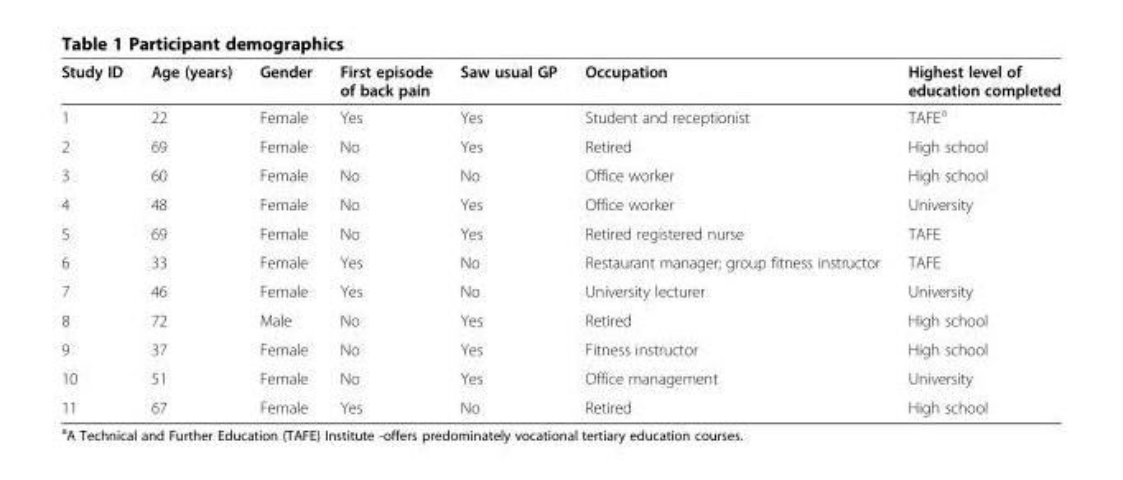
<table><thead><tr><td>Study ID</td><td>Age (years)</td><td>Gender</td><td>First episode of back pain</td><td>Saw usual GP</td><td>Occupation</td><td>Highest level of education completed</td></tr></thead><tbody><tr><td>1</td><td>22</td><td>Female</td><td>Yes</td><td>Yes</td><td>Student and receptionist</td><td>TAFE<sup>a</sup></td></tr><tr><td>2</td><td>69</td><td>Female</td><td>No</td><td>Yes</td><td>Retired</td><td>High school</td></tr><tr><td>3</td><td>60</td><td>Female</td><td>No</td><td>No</td><td>Office worker</td><td>High school</td></tr><tr><td>4</td><td>48</td><td>Female</td><td>No</td><td>Yes</td><td>Office worker</td><td>University</td></tr><tr><td>5</td><td>69</td><td>Female</td><td>No</td><td>Yes</td><td>Retired registered nurse</td><td>TAFE</td></tr><tr><td>6</td><td>33</td><td>Female</td><td>Yes</td><td>No</td><td>Restaurant manager; group fitness instructor</td><td>TAFE</td></tr><tr><td>7</td><td>46</td><td>Female</td><td>Yes</td><td>No</td><td>University lecturer</td><td>University</td></tr><tr><td>8</td><td>72</td><td>Male</td><td>No</td><td>Yes</td><td>Retired</td><td>High school</td></tr><tr><td>9</td><td>37</td><td>Female</td><td>No</td><td>Yes</td><td>Fitness instructor</td><td>High school</td></tr><tr><td>10</td><td>51</td><td>Female</td><td>No</td><td>Yes</td><td>Office management</td><td>University</td></tr><tr><td>11</td><td>67</td><td>Female</td><td>Yes</td><td>No</td><td>Retired</td><td>High school</td></tr></tbody></table>